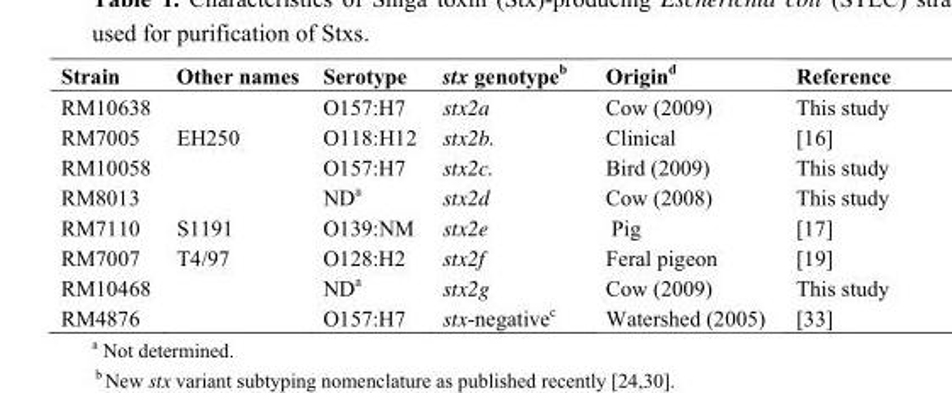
<table><thead><tr><td>Strain</td><td>Other names</td><td>Serotype</td><td>stx genotype<sup>b</sup></td><td>Origin<sup>d</sup></td><td>Reference</td></tr></thead><tbody><tr><td>RM10638</td><td></td><td>O157:H7</td><td>stx2a</td><td>Cow (2009)</td><td>This study</td></tr><tr><td>RM7005</td><td>EH250</td><td>O118:H12</td><td>stx2b.</td><td>Clinical</td><td>[16]</td></tr><tr><td>RM10058</td><td></td><td>O157:H7</td><td>stx2c.</td><td>Bird (2009)</td><td>This study</td></tr><tr><td>RM8013</td><td></td><td>ND<sup>a</sup></td><td>stx2d</td><td>Cow (2008)</td><td>This study</td></tr><tr><td>RM7110</td><td>S1191</td><td>O139:NM</td><td>stx2e</td><td>Pig</td><td>[17]</td></tr><tr><td>RM7007</td><td>T4/97</td><td>O128:H2</td><td>stx2f</td><td>Feral pigeon</td><td>[19]</td></tr><tr><td>RM10468</td><td></td><td>ND<sup>a</sup></td><td>stx2g</td><td>Cow (2009)</td><td>This study</td></tr><tr><td>RM4876</td><td></td><td>O157:H7</td><td>stx-negative<sup>c</sup></td><td>Watershed (2005)</td><td>[33]</td></tr></tbody></table>